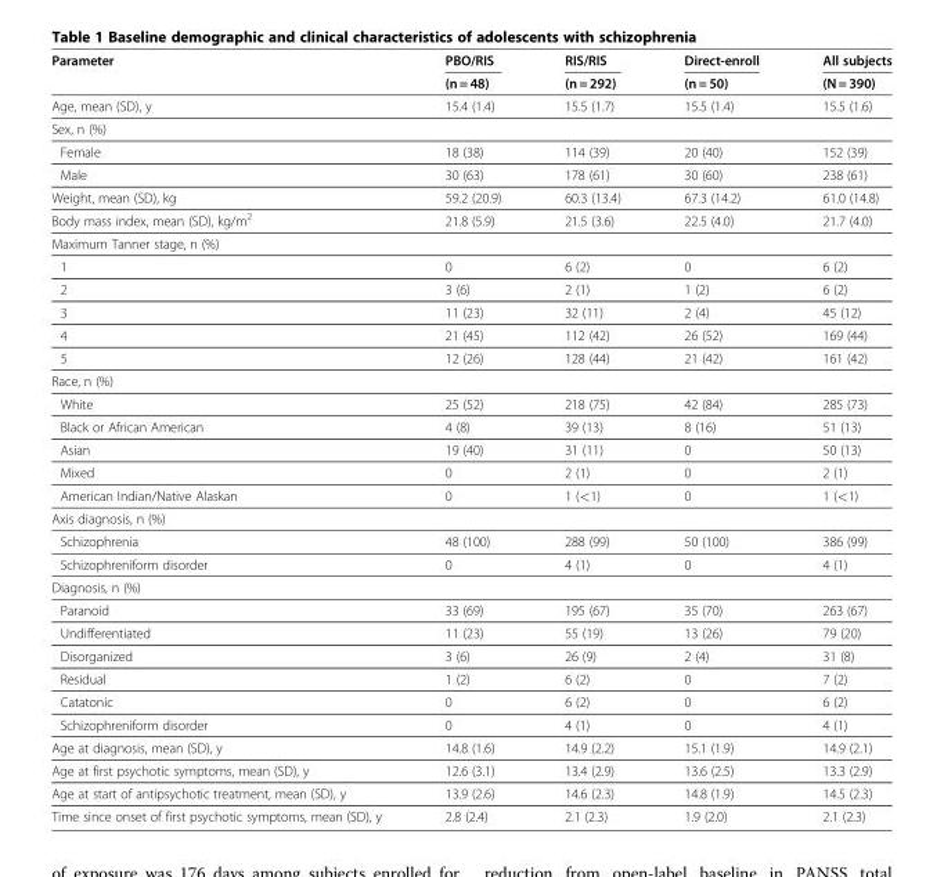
<table><thead><tr><td rowspan="2">Parameter</td><td rowspan="2">PBO/RIS (n = 48)</td><td rowspan="2">RIS/RIS (n = 292)</td><td rowspan="2">Direct-enroll (n = 50)</td><td rowspan="2">All subjects (N = 390)</td></tr><tr></tr></thead><tbody><tr><td>Age, mean (SD), y</td><td>15.4 (1.4)</td><td>15.5 (1.7)</td><td>15.5 (1.4)</td><td>15.5 (1.6)</td></tr><tr><td colspan="5">Sex, n (%)</td></tr><tr><td>Female</td><td>18 (38)</td><td>114 (39)</td><td>20 (40)</td><td>152 (39)</td></tr><tr><td>Male</td><td>30 (63)</td><td>178 (61)</td><td>30 (60)</td><td>238 (61)</td></tr><tr><td>Weight, mean (SD), kg</td><td>59.2 (20.9)</td><td>60.3 (13.4)</td><td>67.3 (14.2)</td><td>61.0 (14.8)</td></tr><tr><td>Body mass index, mean (SD), kg/m<sup>2</sup></td><td>21.8 (5.9)</td><td>21.5 (3.6)</td><td>22.5 (4.0)</td><td>21.7 (4.0)</td></tr><tr><td colspan="5">Maximum Tanner stage, n (%)</td></tr><tr><td>1</td><td>0</td><td>6 (2)</td><td>0</td><td>6 (2)</td></tr><tr><td>2</td><td>3 (6)</td><td>2 (1)</td><td>1 (2)</td><td>6 (2)</td></tr><tr><td>3</td><td>11 (23)</td><td>32 (11)</td><td>2 (4)</td><td>45 (12)</td></tr><tr><td>4</td><td>21 (45)</td><td>112 (42)</td><td>26 (52)</td><td>169 (44)</td></tr><tr><td>5</td><td>12 (26)</td><td>128 (44)</td><td>21 (42)</td><td>161 (42)</td></tr><tr><td colspan="5">Race, n (%)</td></tr><tr><td>White</td><td>25 (52)</td><td>218 (75)</td><td>42 (84)</td><td>285 (73)</td></tr><tr><td>Black or African American</td><td>4 (8)</td><td>39 (13)</td><td>8 (16)</td><td>51 (13)</td></tr><tr><td>Asian</td><td>19 (40)</td><td>31 (11)</td><td>0</td><td>50 (13)</td></tr><tr><td>Mixed</td><td>0</td><td>2 (1)</td><td>0</td><td>2 (1)</td></tr><tr><td>American Indian/Native Alaskan</td><td>0</td><td>1 (&lt;1)</td><td>0</td><td>1 (&lt;1)</td></tr><tr><td colspan="5">Axis diagnosis, n (%)</td></tr><tr><td>Schizophrenia</td><td>48 (100)</td><td>288 (99)</td><td>50 (100)</td><td>386 (99)</td></tr><tr><td>Schizophreniform disorder</td><td>0</td><td>4 (1)</td><td>0</td><td>4 (1)</td></tr><tr><td colspan="5">Diagnosis, n (%)</td></tr><tr><td>Paranoid</td><td>33 (69)</td><td>195 (67)</td><td>35 (70)</td><td>263 (67)</td></tr><tr><td>Undifferentiated</td><td>11 (23)</td><td>55 (19)</td><td>13 (26)</td><td>79 (20)</td></tr><tr><td>Disorganized</td><td>3 (6)</td><td>26 (9)</td><td>2 (4)</td><td>31 (8)</td></tr><tr><td>Residual</td><td>1 (2)</td><td>6 (2)</td><td>0</td><td>7 (2)</td></tr><tr><td>Catatonic</td><td>0</td><td>6 (2)</td><td>0</td><td>6 (2)</td></tr><tr><td>Schizophreniform disorder</td><td>0</td><td>4 (1)</td><td>0</td><td>4 (1)</td></tr><tr><td>Age at diagnosis, mean (SD), y</td><td>14.8 (1.6)</td><td>14.9 (2.2)</td><td>15.1 (1.9)</td><td>14.9 (2.1)</td></tr><tr><td>Age at first psychotic symptoms, mean (SD), y</td><td>12.6 (3.1)</td><td>13.4 (2.9)</td><td>13.6 (2.5)</td><td>13.3 (2.9)</td></tr><tr><td>Age at start of antipsychotic treatment, mean (SD), y</td><td>13.9 (2.6)</td><td>14.6 (2.3)</td><td>14.8 (1.9)</td><td>14.5 (2.3)</td></tr><tr><td>Time since onset of first psychotic symptoms, mean (SD), y</td><td>2.8 (2.4)</td><td>2.1 (2.3)</td><td>1.9 (2.0)</td><td>2.1 (2.3)</td></tr></tbody></table>